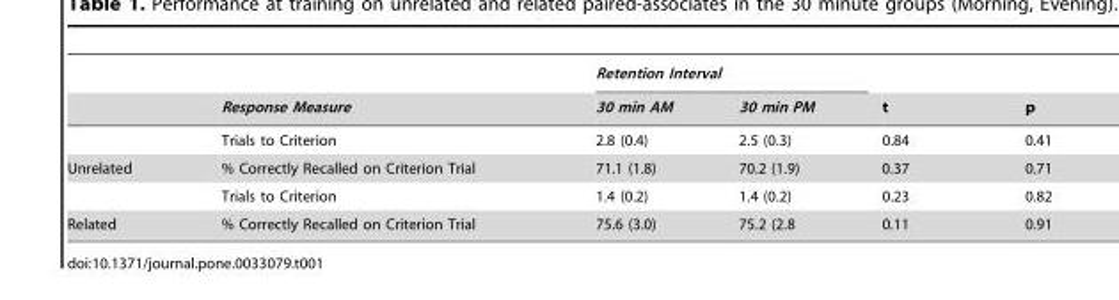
<table><thead><tr><td rowspan="2"></td><td rowspan="2">Response Measure</td><td colspan="2">Retention Interval</td><td rowspan="2">t</td><td rowspan="2">p</td></tr><tr><td>30 min AM</td><td>30 min PM</td></tr></thead><tbody><tr><td></td><td>Trials to Criterion</td><td>2.8 (0.4)</td><td>2.5 (0.3)</td><td>0.84</td><td>0.41</td></tr><tr><td rowspan="2">Unrelated</td><td>% Correctly Recalled on Criterion Trial</td><td>71.1 (1.8)</td><td>70.2 (1.9)</td><td>0.37</td><td>0.71</td></tr><tr><td>Trials to Criterion</td><td>1.4 (0.2)</td><td>1.4 (0.2)</td><td>0.23</td><td>0.82</td></tr><tr><td>Related</td><td>% Correctly Recalled on Criterion Trial</td><td>75.6 (3.0)</td><td>75.2 (2.8</td><td>0.11</td><td>0.91</td></tr></tbody></table>